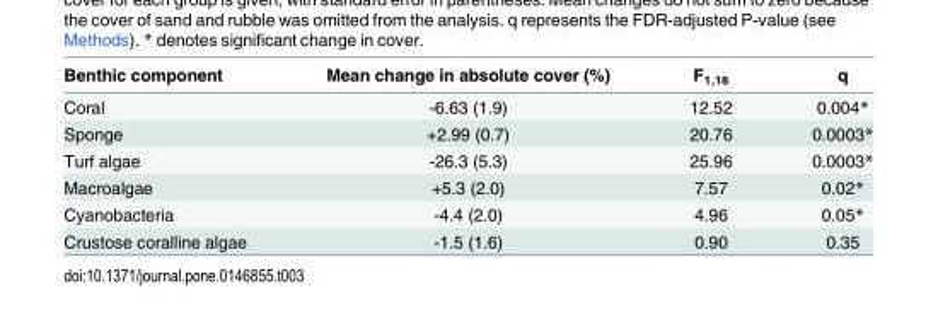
<table><thead><tr><td>Benthic component</td><td>Mean change in absolute cover (%)</td><td>F<sub>1,18</sub></td><td>q</td></tr></thead><tbody><tr><td>Coral</td><td>-6.63 (1.9)</td><td>12.52</td><td>0.004*</td></tr><tr><td>Sponge</td><td>+2.99 (0.7)</td><td>20.76</td><td>0.0003*</td></tr><tr><td>Turf algae</td><td>-26.3 (5.3)</td><td>25.96</td><td>0.0003*</td></tr><tr><td>Macroalgae</td><td>+5.3 (2.0)</td><td>7.57</td><td>0.02*</td></tr><tr><td>Cyanobacteria</td><td>-4.4 (2.0)</td><td>4.96</td><td>0.05*</td></tr><tr><td>Crustose coralline algae</td><td>-1.5 (1.6)</td><td>0.90</td><td>0.35</td></tr></tbody></table>